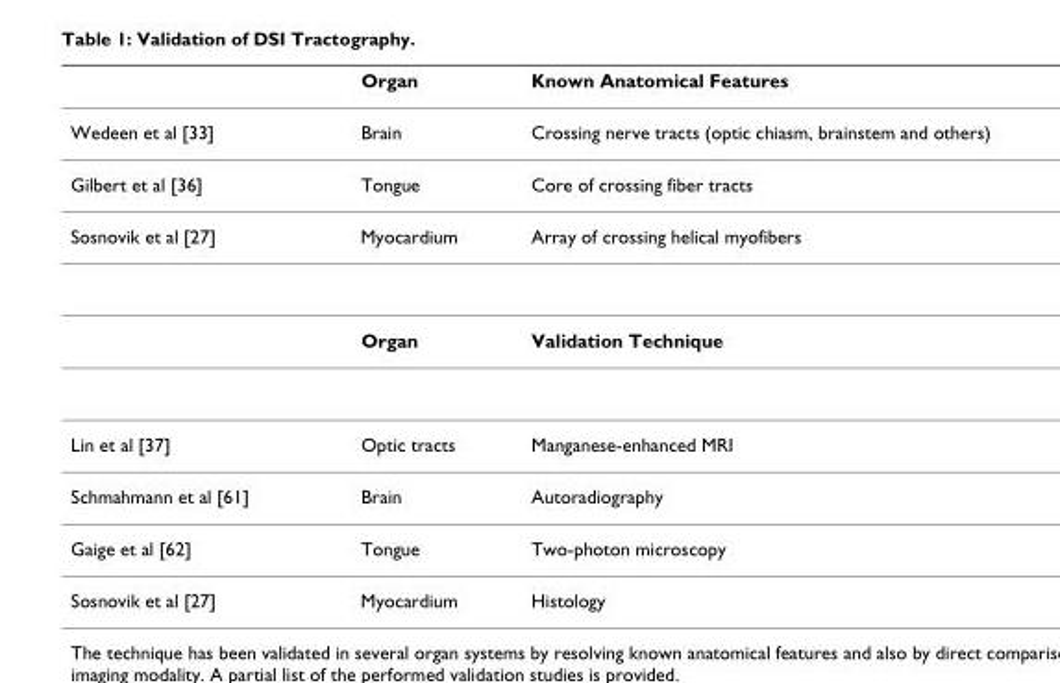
<table><thead><tr><td></td><td>Organ</td><td>Known Anatomical Features</td></tr></thead><tbody><tr><td>Wedeen et al [33]</td><td>Brain</td><td>Crossing nerve tracts (optic chiasm, brainstem and others)</td></tr><tr><td>Gilbert et al [36]</td><td>Tongue</td><td>Core of crossing fiber tracts</td></tr><tr><td rowspan="2">Sosnovik et al [27]</td><td>Myocardium</td><td>Array of crossing helical myofibers</td></tr><tr><td>Organ</td><td>Validation Technique</td></tr><tr><td>Lin et al [37]</td><td>Optic tracts</td><td>Manganese-enhanced MRI</td></tr><tr><td>Schmahmann et al [61]</td><td>Brain</td><td>Autoradiography</td></tr><tr><td>Gaige et al [62]</td><td>Tongue</td><td>Two-photon microscopy</td></tr><tr><td>Sosnovik et al [27]</td><td>Myocardium</td><td>Histology</td></tr></tbody></table>